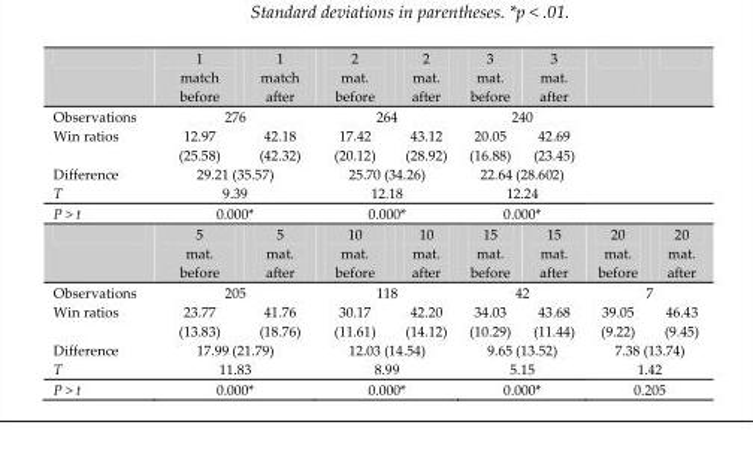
<table><thead><tr><td></td><td>1 match before</td><td>1 match after</td><td>2 mat. before</td><td>2 mat. after</td><td>3 mat. before</td><td>3 mat. after</td><td></td><td></td></tr></thead><tbody><tr><td>Observations</td><td colspan="2">276</td><td colspan="2">264</td><td colspan="2">240</td><td rowspan="4"></td><td rowspan="4"></td></tr><tr><td>Win ratios</td><td>12.97 (25.58)</td><td>42.18 (42.32)</td><td>17.42 (20.12)</td><td>43.12 (28.92)</td><td>20.05 (16.88)</td><td>42.69 (23.45)</td></tr><tr><td>Difference</td><td colspan="2">29.21 (35.57)</td><td colspan="2">25.70 (34.26)</td><td colspan="2">22.64 (28.602)</td></tr><tr><td>T</td><td colspan="2">9.39</td><td colspan="2">12.18</td><td colspan="2">12.24</td></tr><tr><td rowspan="2">P &gt; t</td><td colspan="2">0.000*</td><td colspan="2">0.000*</td><td colspan="2">0.000*</td><td colspan="2"></td></tr><tr><td>5 mat. before</td><td>5 mat. after</td><td>10 mat. before</td><td>10 mat. after</td><td>15 mat. before</td><td>15 mat. after</td><td>20 mat. before</td><td>20 mat. after</td></tr><tr><td>Observations</td><td colspan="2">205</td><td colspan="2">118</td><td colspan="2">42</td><td colspan="2">7</td></tr><tr><td>Win ratios</td><td>23.77 (13.83)</td><td>41.76 (18.76)</td><td>30.17 (11.61)</td><td>42.20 (14.12)</td><td>34.03 (10.29)</td><td>43.68 (11.44)</td><td>39.05 (9.22)</td><td>46.43 (9.45)</td></tr><tr><td>Difference</td><td colspan="2">17.99 (21.79)</td><td colspan="2">12.03 (14.54)</td><td colspan="2">9.65 (13.52)</td><td colspan="2">7.38 (13.74)</td></tr><tr><td>T</td><td colspan="2">11.83</td><td colspan="2">8.99</td><td colspan="2">5.15</td><td colspan="2">1.42</td></tr><tr><td>P &gt; t</td><td colspan="2">0.000*</td><td colspan="2">0.000*</td><td colspan="2">0.000*</td><td colspan="2">0.205</td></tr></tbody></table>